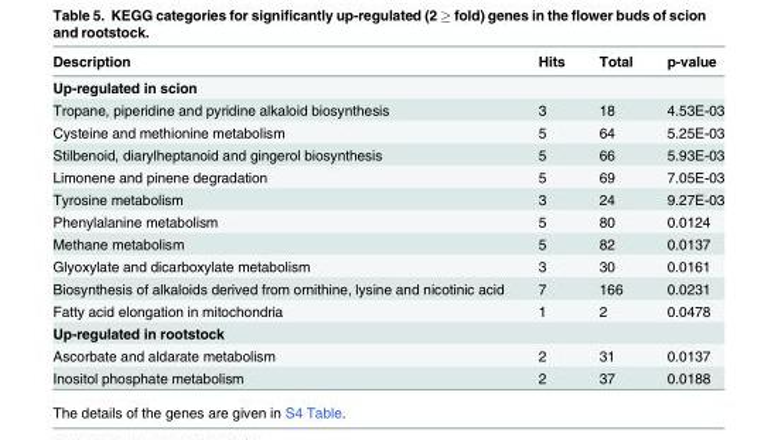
<table><thead><tr><td>Description</td><td>Hits</td><td>Total</td><td>p-value</td></tr></thead><tbody><tr><td colspan="4">Up-regulated in scion</td></tr><tr><td>Tropane, piperidine and pyridine alkaloid biosynthesis</td><td>3</td><td>18</td><td>4.53E-03</td></tr><tr><td>Cysteine and methionine metabolism</td><td>5</td><td>64</td><td>5.25E-03</td></tr><tr><td>Stilbenoid, diarylheptanoid and gingerol biosynthesis</td><td>5</td><td>66</td><td>5.93E-03</td></tr><tr><td>Limonene and pinene degradation</td><td>5</td><td>69</td><td>7.05E-03</td></tr><tr><td>Tyrosine metabolism</td><td>3</td><td>24</td><td>9.27E-03</td></tr><tr><td>Phenylalanine metabolism</td><td>5</td><td>80</td><td>0.0124</td></tr><tr><td>Methane metabolism</td><td>5</td><td>82</td><td>0.0137</td></tr><tr><td>Glyoxylate and dicarboxylate metabolism</td><td>3</td><td>30</td><td>0.0161</td></tr><tr><td>Biosynthesis of alkaloids derived from ornithine, lysine and nicotinic acid</td><td>7</td><td>166</td><td>0.0231</td></tr><tr><td>Fatty acid elongation in mitochondria</td><td>1</td><td>2</td><td>0.0478</td></tr><tr><td colspan="4">Up-regulated in rootstock</td></tr><tr><td>Ascorbate and aldarate metabolism</td><td>2</td><td>31</td><td>0.0137</td></tr><tr><td>Inositol phosphate metabolism</td><td>2</td><td>37</td><td>0.0188</td></tr></tbody></table>